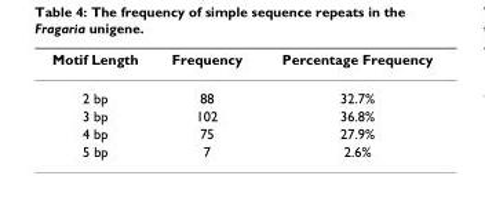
<table><thead><tr><td>Motif Length</td><td>Frequency</td><td>Percentage Frequency</td></tr></thead><tbody><tr><td>2 bp</td><td>88</td><td>32.7%</td></tr><tr><td>3 bp</td><td>102</td><td>36.8%</td></tr><tr><td>4 bp</td><td>75</td><td>27.9%</td></tr><tr><td>5 bp</td><td>7</td><td>2.6%</td></tr></tbody></table>